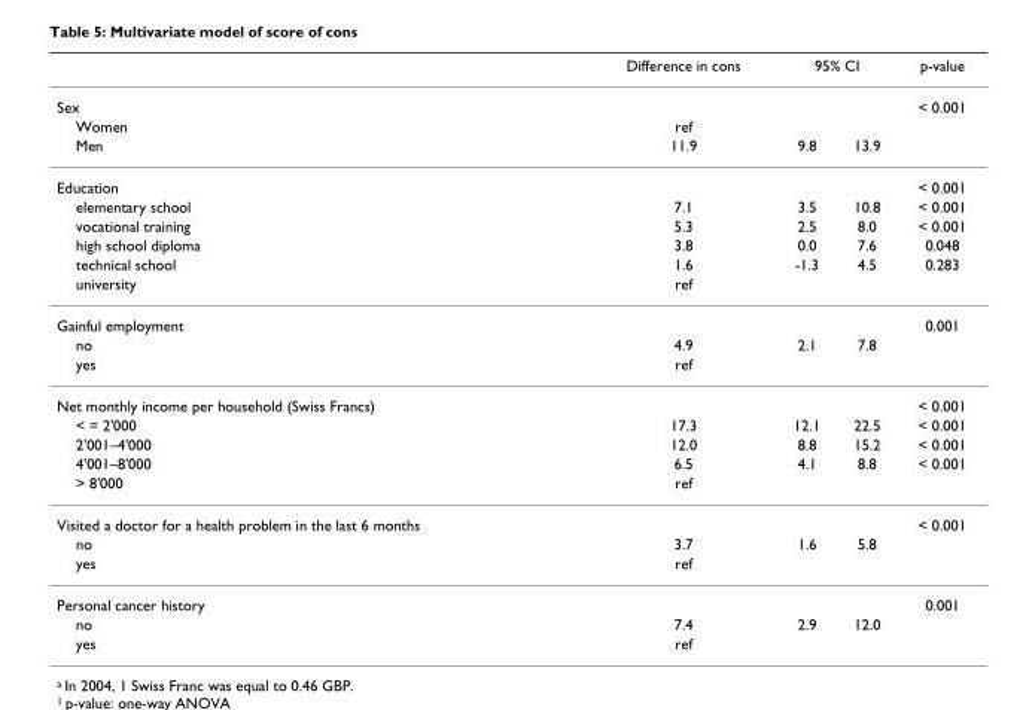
<table><thead><tr><td rowspan="2">Sex</td><td rowspan="2">Difference in cons</td><td colspan="2">95% CI</td><td rowspan="2">p-value &lt; 0.001</td></tr><tr><td></td><td></td></tr></thead><tbody><tr><td>Women</td><td>ref</td><td></td><td></td><td></td></tr><tr><td>Men</td><td>11.9</td><td>9.8</td><td>13.9</td><td></td></tr><tr><td>Education</td><td></td><td></td><td></td><td>&lt; 0.001</td></tr><tr><td>elementary school</td><td>7.1</td><td>3.5</td><td>10.8</td><td>&lt; 0.001</td></tr><tr><td>vocational training</td><td>5.3</td><td>2.5</td><td>8.0</td><td>&lt; 0.001</td></tr><tr><td>high school diploma</td><td>3.8</td><td>0.0</td><td>7.6</td><td>0.048</td></tr><tr><td>technical school</td><td>1.6</td><td>-1.3</td><td>4.5</td><td>0.283</td></tr><tr><td>university</td><td>ref</td><td></td><td></td><td></td></tr><tr><td>Gainful employment</td><td></td><td></td><td></td><td>0.001</td></tr><tr><td>no</td><td>4.9</td><td>2.1</td><td>7.8</td><td></td></tr><tr><td>yes</td><td>ref</td><td></td><td></td><td></td></tr><tr><td>Net monthly income per household (Swiss Francs)</td><td></td><td></td><td></td><td>&lt; 0.001</td></tr><tr><td>&lt; = 2&#x27;000</td><td>17.3</td><td>12.1</td><td>22.5</td><td>&lt; 0.001</td></tr><tr><td>2&#x27;001–4&#x27;000</td><td>12.0</td><td>8.8</td><td>15.2</td><td>&lt; 0.001</td></tr><tr><td>4&#x27;001–8&#x27;000</td><td>6.5</td><td>4.1</td><td>8.8</td><td>&lt; 0.001</td></tr><tr><td>&gt; 8&#x27;000</td><td>ref</td><td></td><td></td><td></td></tr><tr><td>Visited a doctor for a health problem in the last 6 months</td><td></td><td></td><td></td><td>&lt; 0.001</td></tr><tr><td>no</td><td>3.7</td><td>1.6</td><td>5.8</td><td></td></tr><tr><td>yes</td><td>ref</td><td></td><td></td><td></td></tr><tr><td>Personal cancer history</td><td></td><td></td><td></td><td>0.001</td></tr><tr><td>no</td><td>7.4</td><td>2.9</td><td>12.0</td><td></td></tr><tr><td>yes</td><td>ref</td><td></td><td></td><td></td></tr></tbody></table>